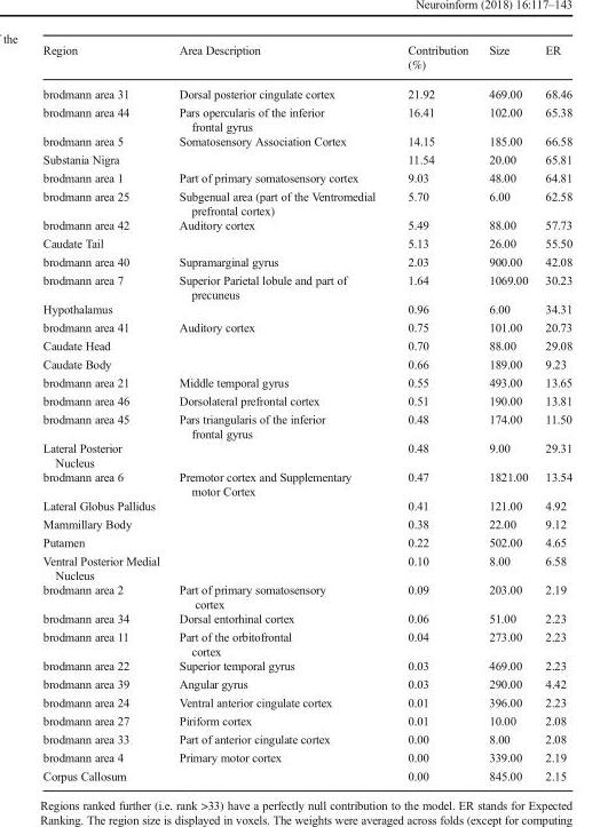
<table><thead><tr><td>Region</td><td>Area Description</td><td>Contribution (%)</td><td>Size</td><td>ER</td></tr></thead><tbody><tr><td>brodmann area 31</td><td>Dorsal posterior cingulate cortex</td><td>21.92</td><td>469.00</td><td>68.46</td></tr><tr><td>brodmann area 44</td><td>Pars opercularis of the inferior frontal gyrus</td><td>16.41</td><td>102.00</td><td>65.38</td></tr><tr><td>brodmann area 5</td><td>Somatosensory Association Cortex</td><td>14.15</td><td>185.00</td><td>66.58</td></tr><tr><td>Substania Nigra</td><td></td><td>11.54</td><td>20.00</td><td>65.81</td></tr><tr><td>brodmann area 1</td><td>Part of primary somatosensory cortex</td><td>9.03</td><td>48.00</td><td>64.81</td></tr><tr><td>brodmann area 25</td><td>Subgenual area (part of the Ventromedial prefrontal cortex)</td><td>5.70</td><td>6.00</td><td>62.58</td></tr><tr><td>brodmann area 42</td><td>Auditory cortex</td><td>5.49</td><td>88.00</td><td>57.73</td></tr><tr><td>Caudate Tail</td><td></td><td>5.13</td><td>26.00</td><td>55.50</td></tr><tr><td>brodmann area 40</td><td>Supramarginal gyrus</td><td>2.03</td><td>900.00</td><td>42.08</td></tr><tr><td>brodmann area 7</td><td>Superior Parietal lobule and part of precuneus</td><td>1.64</td><td>1069.00</td><td>30.23</td></tr><tr><td>Hypothalamus</td><td></td><td>0.96</td><td>6.00</td><td>34.31</td></tr><tr><td>brodmann area 41</td><td>Auditory cortex</td><td>0.75</td><td>101.00</td><td>20.73</td></tr><tr><td>Caudate Head</td><td></td><td>0.70</td><td>88.00</td><td>29.08</td></tr><tr><td>Caudate Body</td><td></td><td>0.66</td><td>189.00</td><td>9.23</td></tr><tr><td>brodmann area 21</td><td>Middle temporal gyrus</td><td>0.55</td><td>493.00</td><td>13.65</td></tr><tr><td>brodmann area 46</td><td>Dorsolateral prefrontal cortex</td><td>0.51</td><td>190.00</td><td>13.81</td></tr><tr><td>brodmann area 45</td><td>Pars triangularis of the inferior frontal gyrus</td><td>0.48</td><td>174.00</td><td>11.50</td></tr><tr><td>Lateral Posterior Nucleus</td><td></td><td>0.48</td><td>9.00</td><td>29.31</td></tr><tr><td>brodmann area 6</td><td>Premotor cortex and Supplementary motor Cortex</td><td>0.47</td><td>1821.00</td><td>13.54</td></tr><tr><td>Lateral Globus Pallidus</td><td></td><td>0.41</td><td>121.00</td><td>4.92</td></tr><tr><td>Mammillary Body</td><td></td><td>0.38</td><td>22.00</td><td>9.12</td></tr><tr><td>Putamen</td><td></td><td>0.22</td><td>502.00</td><td>4.65</td></tr><tr><td>Ventral Posterior Medial Nucleus</td><td></td><td>0.10</td><td>8.00</td><td>6.58</td></tr><tr><td>brodmann area 2</td><td>Part of primary somatosensory cortex</td><td>0.09</td><td>203.00</td><td>2.19</td></tr><tr><td>brodmann area 34</td><td>Dorsal entorhinal cortex</td><td>0.06</td><td>51.00</td><td>2.23</td></tr><tr><td>brodmann area 11</td><td>Part of the orbitofrontal cortex</td><td>0.04</td><td>273.00</td><td>2.23</td></tr><tr><td>brodmann area 22</td><td>Superior temporal gyrus</td><td>0.03</td><td>469.00</td><td>2.23</td></tr><tr><td>brodmann area 39</td><td>Angular gyrus</td><td>0.03</td><td>290.00</td><td>4.42</td></tr><tr><td>brodmann area 24</td><td>Ventral anterior cingulate cortex</td><td>0.01</td><td>396.00</td><td>2.23</td></tr><tr><td>brodmann area 27</td><td>Piriform cortex</td><td>0.01</td><td>10.00</td><td>2.08</td></tr><tr><td>brodmann area 33</td><td>Part of anterior cingulate cortex</td><td>0.00</td><td>8.00</td><td>2.08</td></tr><tr><td>brodmann area 4</td><td>Primary motor cortex</td><td>0.00</td><td>339.00</td><td>2.19</td></tr><tr><td>Corpus Callosum</td><td></td><td>0.00</td><td>845.00</td><td>2.15</td></tr></tbody></table>